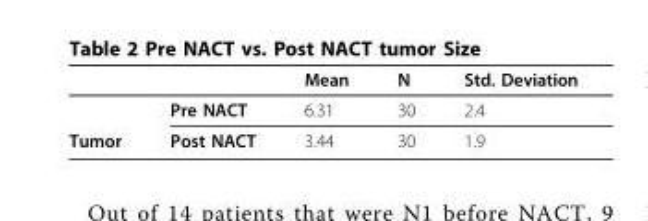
<table><thead><tr><td></td><td></td><td>Mean</td><td>N</td><td>Std. Deviation</td></tr></thead><tbody><tr><td></td><td>Pre NACT</td><td>6.31</td><td>30</td><td>2.4</td></tr><tr><td>Tumor</td><td>Post NACT</td><td>3.44</td><td>30</td><td>1.9</td></tr></tbody></table>